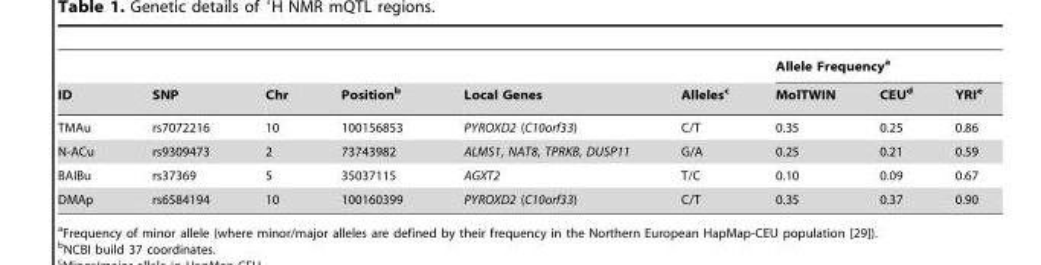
<table><thead><tr><td rowspan="2">ID</td><td rowspan="2">SNP</td><td rowspan="2">Chr</td><td rowspan="2">Position<sup>b</sup></td><td rowspan="2">Local Genes</td><td rowspan="2">Alleles<sup>c</sup></td><td colspan="3">Allele Frequency<sup>a</sup></td></tr><tr><td>MolTWIN</td><td>CEU<sup>d</sup></td><td>YRI<sup>e</sup></td></tr></thead><tbody><tr><td>TMAu</td><td>rs7072216</td><td>10</td><td>100156853</td><td>PYROXD2 (C10orf33)</td><td>C/T</td><td>0.35</td><td>0.25</td><td>0.86</td></tr><tr><td>N-ACu</td><td>rs9309473</td><td>2</td><td>73743982</td><td>ALMS1, NAT8, TPRKB, DUSP11</td><td>G/A</td><td>0.25</td><td>0.21</td><td>0.59</td></tr><tr><td>BAIBu</td><td>rs37369</td><td>5</td><td>35037115</td><td>AGXT2</td><td>T/C</td><td>0.10</td><td>0.09</td><td>0.67</td></tr><tr><td>DMAp</td><td>rs6584194</td><td>10</td><td>100160399</td><td>PYROXD2 (C10orf33)</td><td>C/T</td><td>0.35</td><td>0.37</td><td>0.90</td></tr></tbody></table>